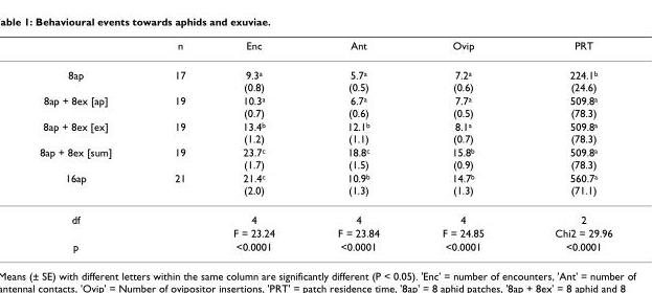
<table><thead><tr><td></td><td>n</td><td>Enc</td><td>Ant</td><td>Ovip</td><td>PRT</td></tr></thead><tbody><tr><td>8ap</td><td>17</td><td>9.3<sup>a</sup> (0.8)</td><td>5.7<sup>a</sup> (0.5)</td><td>7.2<sup>a</sup> (0.6)</td><td>224.1<sup>b</sup> (24.6)</td></tr><tr><td>8ap + 8ex [ap]</td><td>19</td><td>10.3<sup>a</sup> (0.7)</td><td>6.7<sup>a</sup> (0.6)</td><td>7.7<sup>a</sup> (0.5)</td><td>509.8<sup>a</sup> (78.3)</td></tr><tr><td>8ap + 8ex [ex]</td><td>19</td><td>13.4<sup>b</sup> (1.2)</td><td>12.1<sup>b</sup> (1.1)</td><td>8.1<sup>a</sup> (0.7)</td><td>509.8<sup>a</sup> (78.3)</td></tr><tr><td>8ap + 8ex [sum]</td><td>19</td><td>23.7<sup>c</sup> (1.7)</td><td>18.8<sup>c</sup> (1.5)</td><td>15.8<sup>b</sup> (0.9)</td><td>509.8<sup>a</sup> (78.3)</td></tr><tr><td>16ap</td><td>21</td><td>21.4<sup>c</sup> (2.0)</td><td>10.9<sup>b</sup> (1.3)</td><td>14.7<sup>b</sup> (1.3)</td><td>560.7<sup>a</sup> (71.1)</td></tr><tr><td rowspan="2">df</td><td></td><td>4</td><td>4</td><td>4</td><td>2</td></tr><tr><td></td><td>F = 23.24</td><td>F = 23.84</td><td>F = 24.85</td><td>Chi2 = 29.96</td></tr><tr><td>p</td><td></td><td>&lt;0.0001</td><td>&lt;0.0001</td><td>&lt;0.0001</td><td>&lt;0.0001</td></tr></tbody></table>